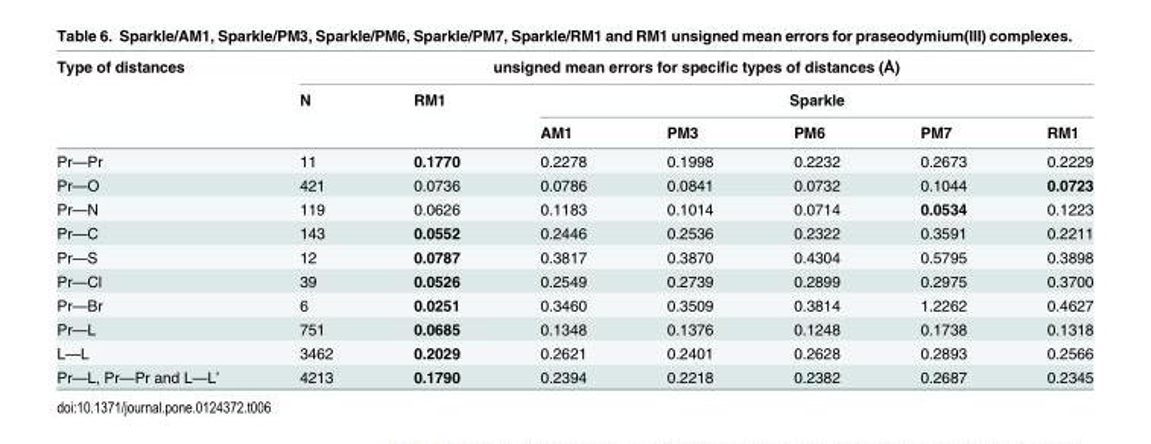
<table><thead><tr><td rowspan="3">Type of distances</td><td colspan="7">unsigned mean errors for specific types of distances (Å)</td></tr><tr><td rowspan="2">N</td><td rowspan="2">RM1</td><td colspan="5">Sparkle</td></tr><tr><td>AM1</td><td>PM3</td><td>PM6</td><td>PM7</td><td>RM1</td></tr></thead><tbody><tr><td>Pr—Pr</td><td>11</td><td>0.1770</td><td>0.2278</td><td>0.1998</td><td>0.2232</td><td>0.2673</td><td>0.2229</td></tr><tr><td>Pr—O</td><td>421</td><td>0.0736</td><td>0.0786</td><td>0.0841</td><td>0.0732</td><td>0.1044</td><td>0.0723</td></tr><tr><td>Pr—N</td><td>119</td><td>0.0626</td><td>0.1183</td><td>0.1014</td><td>0.0714</td><td>0.0534</td><td>0.1223</td></tr><tr><td>Pr—C</td><td>143</td><td>0.0552</td><td>0.2446</td><td>0.2536</td><td>0.2322</td><td>0.3591</td><td>0.2211</td></tr><tr><td>Pr—S</td><td>12</td><td>0.0787</td><td>0.3817</td><td>0.3870</td><td>0.4304</td><td>0.5795</td><td>0.3898</td></tr><tr><td>Pr—Cl</td><td>39</td><td>0.0526</td><td>0.2549</td><td>0.2739</td><td>0.2899</td><td>0.2975</td><td>0.3700</td></tr><tr><td>Pr—Br</td><td>6</td><td>0.0251</td><td>0.3460</td><td>0.3509</td><td>0.3814</td><td>1.2262</td><td>0.4627</td></tr><tr><td>Pr—L</td><td>751</td><td>0.0685</td><td>0.1348</td><td>0.1376</td><td>0.1248</td><td>0.1738</td><td>0.1318</td></tr><tr><td>L—L</td><td>3462</td><td>0.2029</td><td>0.2621</td><td>0.2401</td><td>0.2628</td><td>0.2893</td><td>0.2566</td></tr><tr><td>Pr—L, Pr—Pr and L—L’</td><td>4213</td><td>0.1790</td><td>0.2394</td><td>0.2218</td><td>0.2382</td><td>0.2687</td><td>0.2345</td></tr></tbody></table>